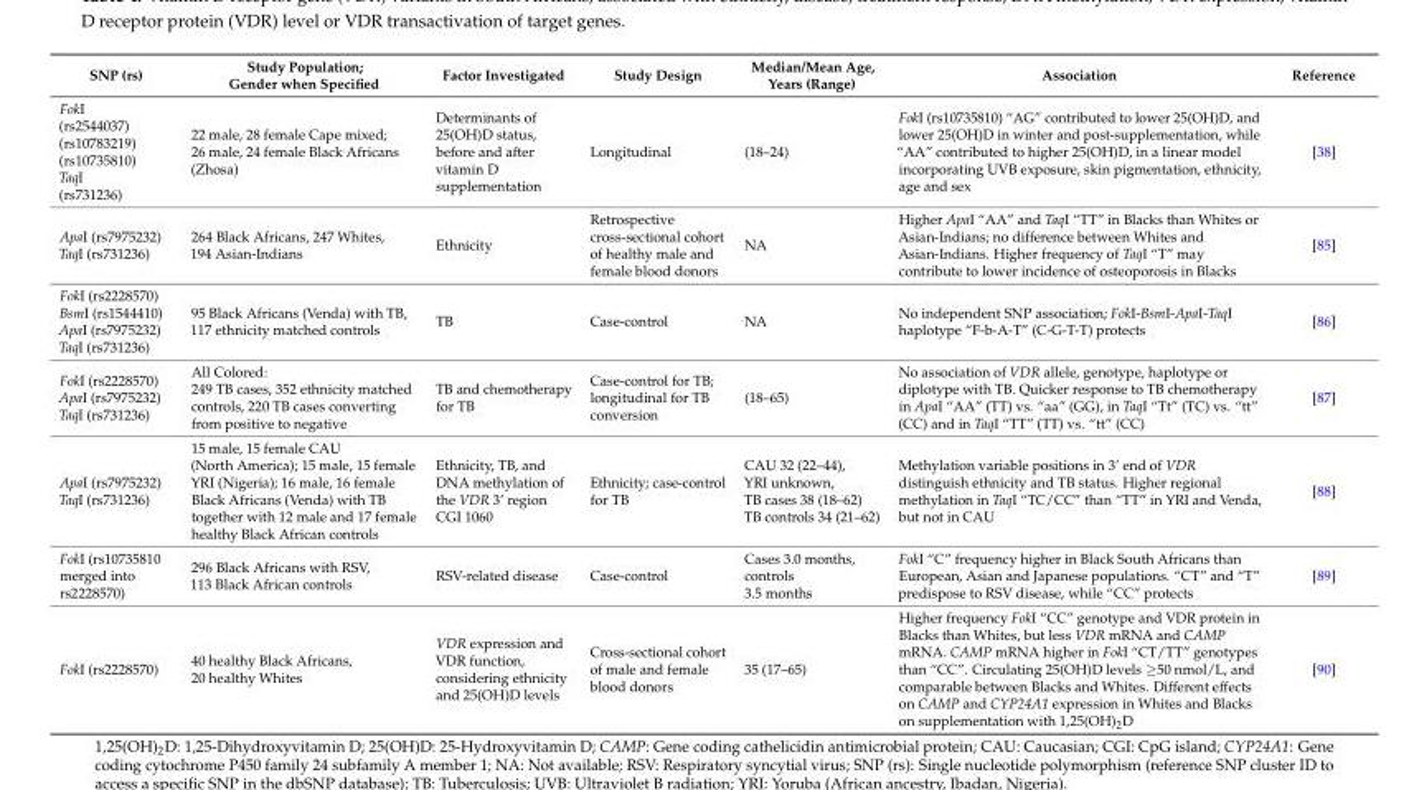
<table><thead><tr><td>SNP (rs)</td><td>Study Population; Gender when Specified</td><td>Factor Investigated</td><td>Study Design</td><td>Median/Mean Age, Years (Range)</td><td>Association</td><td>Reference</td></tr></thead><tbody><tr><td>FokI (rs2544037) (rs10783219) (rs10735810) TaqI (rs731236)</td><td>22 male, 28 female Cape mixed; 26 male, 24 female Black Africans (Zhosa)</td><td>Determinants of 25(OH)D status, before and after vitamin D supplementation</td><td>Longitudinal</td><td>(18–24)</td><td>FokI (rs10735810) “AG” contributed to lower 25(OH)D, and lower 25(OH)D in winter and post-supplementation, while “AA” contributed to higher 25(OH)D, in a linear model incorporating UVB exposure, skin pigmentation, ethnicity, age and sex</td><td>[38]</td></tr><tr><td>ApaI (rs7975232) TaqI (rs731236)</td><td>264 Black Africans, 247 Whites, 194 Asian-Indians</td><td>Ethnicity</td><td>Retrospective cross-sectional cohort of healthy male and female blood donors</td><td>NA</td><td>Higher ApaI “AA” and TaqI “TT” in Blacks than Whites or Asian-Indians; no difference between Whites and Asian-Indians. Higher frequency of TaqI “T” may contribute to lower incidence of osteoporosis in Blacks</td><td>[85]</td></tr><tr><td>FokI (rs2228570) BsmI (rs1544410) ApaI (rs7975232) TaqI (rs731236)</td><td>95 Black Africans (Venda) with TB, 117 ethnicity matched controls</td><td>TB</td><td>Case-control</td><td>NA</td><td>No independent SNP association; FokI-BsmI-ApaI-TaqI haplotype “F-b-A-T” (C-G-T-T) protects</td><td>[86]</td></tr><tr><td>FokI (rs2228570) ApaI (rs7975232) TaqI (rs731236)</td><td>All Colored: 249 TB cases, 352 ethnicity matched controls, 220 TB cases converting from positive to negative</td><td>TB and chemotherapy for TB</td><td>Case-control for TB; longitudinal for TB conversion</td><td>(18–65)</td><td>No association of VDR allele, genotype, haplotype or diplotype with TB. Quicker response to TB chemotherapy in ApaI “AA” (TT) vs. “aa” (GG), in TaqI “Tt” (TC) vs. “tt” (CC) and in TaqI “TT” (TT) vs. “tt” (CC)</td><td>[87]</td></tr><tr><td>ApaI (rs7975232) TaqI (rs731236)</td><td>15 male, 15 female CAU (North America); 15 male, 15 female YRI (Nigeria); 16 male, 16 female Black Africans (Venda) with TB together with 12 male and 17 female healthy Black African controls</td><td>Ethnicity, TB, and DNA methylation of the VDR 3’ region CGI 1060</td><td>Ethnicity; case-control for TB</td><td>CAU 32 (22–44), YRI unknown, TB cases 38 (18–62) TB controls 34 (21–62)</td><td>Methylation variable positions in 3’ end of VDR distinguish ethnicity and TB status. Higher regional methylation in TaqI “TC/CC” than “TT” in YRI and Venda, but not in CAU</td><td>[88]</td></tr><tr><td>FokI (rs10735810 merged into rs2228570)</td><td>296 Black Africans with RSV, 113 Black African controls</td><td>RSV-related disease</td><td>Case-control</td><td>Cases 3.0 months, controls 3.5 months</td><td>FokI “C” frequency higher in Black South Africans than European, Asian and Japanese populations. “CT” and “T” predispose to RSV disease, while “CC” protects</td><td>[89]</td></tr><tr><td>FokI (rs2228570)</td><td>40 healthy Black Africans, 20 healthy Whites</td><td>VDR expression and VDR function, considering ethnicity and 25(OH)D levels</td><td>Cross-sectional cohort of male and female blood donors</td><td>35 (17–65)</td><td>Higher frequency FokI “CC” genotype and VDR protein in Blacks than Whites, but less VDR mRNA and CAMP mRNA. CAMP mRNA higher in FokI “CT/TT” genotypes than “CC”. Circulating 25(OH)D levels ≥50 nmol/L, and comparable between Blacks and Whites. Different effects on CAMP and CYP24A1 expression in Whites and Blacks on supplementation with 1,25(OH)<sub>2</sub>D</td><td>[90]</td></tr></tbody></table>